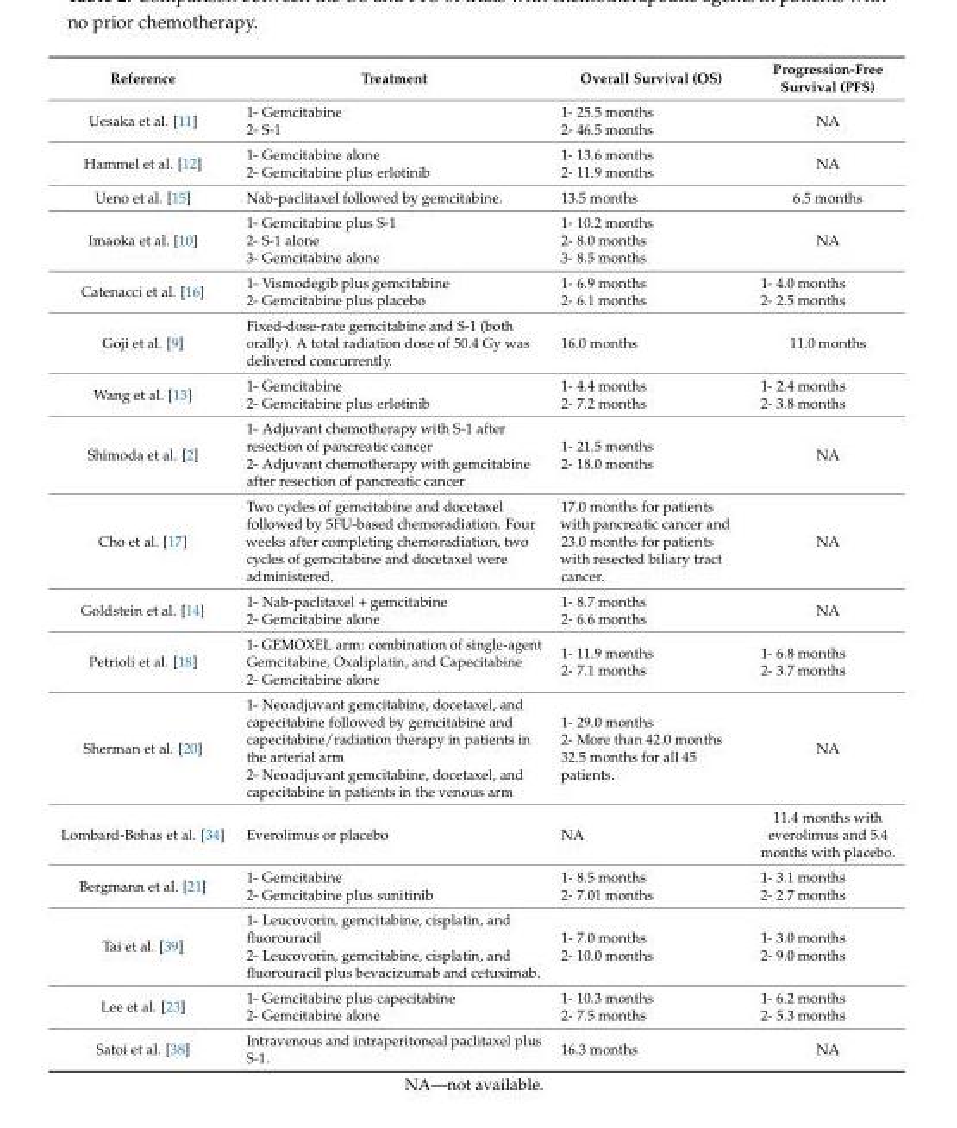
<table><thead><tr><td>Reference</td><td>Treatment</td><td>Overall Survival (OS)</td><td>Progression-Free Survival (PFS)</td></tr></thead><tbody><tr><td>Uesaka et al. [11]</td><td>1- Gemcitabine 2- S-1</td><td>1- 25.5 months 2- 46.5 months</td><td>NA</td></tr><tr><td>Hammel et al. [12]</td><td>1- Gemcitabine alone 2- Gemcitabine plus erlotinib</td><td>1- 13.6 months 2- 11.9 months</td><td>NA</td></tr><tr><td>Ueno et al. [15]</td><td>Nab-paclitaxel followed by gemcitabine.</td><td>13.5 months</td><td>6.5 months</td></tr><tr><td>Imaoka et al. [10]</td><td>1- Gemcitabine plus S-1 2- S-1 alone 3- Gemcitabine alone</td><td>1- 10.2 months 2- 8.0 months 3- 8.5 months</td><td>NA</td></tr><tr><td>Catenacci et al. [16]</td><td>1- Vismodegib plus gemcitabine 2- Gemcitabine plus placebo</td><td>1- 6.9 months 2- 6.1 months</td><td>1- 4.0 months 2- 2.5 months</td></tr><tr><td>Goji et al. [9]</td><td>Fixed-dose-rate gemcitabine and S-1 (both orally). A total radiation dose of 50.4 Gy was delivered concurrently.</td><td>16.0 months</td><td>11.0 months</td></tr><tr><td>Wang et al. [13]</td><td>1- Gemcitabine 2- Gemcitabine plus erlotinib</td><td>1- 4.4 months 2- 7.2 months</td><td>1- 2.4 months 2- 3.8 months</td></tr><tr><td>Shimoda et al. [2]</td><td>1- Adjuvant chemotherapy with S-1 after resection of pancreatic cancer 2- Adjuvant chemotherapy with gemcitabine after resection of pancreatic cancer</td><td>1- 21.5 months 2- 18.0 months</td><td>NA</td></tr><tr><td>Cho et al. [17]</td><td>Two cycles of gemcitabine and docetaxel followed by 5FU-based chemoradiation. Four weeks after completing chemoradiation, two cycles of gemcitabine and docetaxel were administered.</td><td>17.0 months for patients with pancreatic cancer and 23.0 months for patients with resected biliary tract cancer.</td><td>NA</td></tr><tr><td>Goldstein et al. [14]</td><td>1- Nab-paclitaxel + gemcitabine 2- Gemcitabine alone</td><td>1- 8.7 months 2- 6.6 months</td><td>NA</td></tr><tr><td>Petrioli et al. [18]</td><td>1- GEMOXEL arm: combination of single-agent Gemcitabine, Oxaliplatin, and Capecitabine 2- Gemcitabine alone</td><td>1- 11.9 months 2- 7.1 months</td><td>1- 6.8 months 2- 3.7 months</td></tr><tr><td>Sherman et al. [20]</td><td>1- Neoadjuvant gemcitabine, docetaxel, and capecitabine followed by gemcitabine and capecitabine/radiation therapy in patients in the arterial arm 2- Neoadjuvant gemcitabine, docetaxel, and capecitabine in patients in the venous arm</td><td>1- 29.0 months 2- More than 42.0 months 32.5 months for all 45 patients.</td><td>NA</td></tr><tr><td>Lombard-Bohas et al. [34]</td><td>Everolimus or placebo</td><td>NA</td><td>11.4 months with everolimus and 5.4 months with placebo.</td></tr><tr><td>Bergmann et al. [21]</td><td>1- Gemcitabine 2- Gemcitabine plus sunitinib</td><td>1- 8.5 months 2- 7.01 months</td><td>1- 3.1 months 2- 2.7 months</td></tr><tr><td>Tai et al. [39]</td><td>1- Leucovorin, gemcitabine, cisplatin, and fluorouracil 2- Leucovorin, gemcitabine, cisplatin, and fluorouracil plus bevacizumab and cetuximab.</td><td>1- 7.0 months 2- 10.0 months</td><td>1- 3.0 months 2- 9.0 months</td></tr><tr><td>Lee et al. [23]</td><td>1- Gemcitabine plus capecitabine 2- Gemcitabine alone</td><td>1- 10.3 months 2- 7.5 months</td><td>1- 6.2 months 2- 5.3 months</td></tr><tr><td>Satoi et al. [38]</td><td>Intravenous and intraperitoneal paclitaxel plus S-1.</td><td>16.3 months</td><td>NA</td></tr></tbody></table>